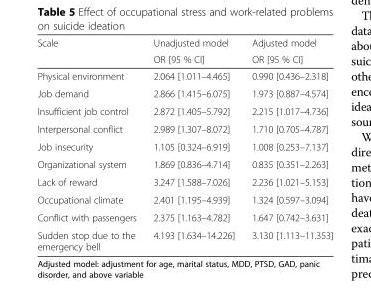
<table><thead><tr><td rowspan="2">Scale</td><td rowspan="2">Unadjusted model OR [95 % CI]</td><td rowspan="2">Adjusted model OR [95 % CI]</td></tr><tr></tr></thead><tbody><tr><td>Physical environment</td><td>2.064 [1.011–4.465]</td><td>0.990 [0.436–2.318]</td></tr><tr><td>Job demand</td><td>2.866 [1.415–6.075]</td><td>1.973 [0.887–4.574]</td></tr><tr><td>Insufficient job control</td><td>2.872 [1.405–5.792]</td><td>2.215 [1.017–4.736]</td></tr><tr><td>Interpersonal conflict</td><td>2.989 [1.307–8.072]</td><td>1.710 [0.705–4.787]</td></tr><tr><td>Job insecurity</td><td>1.105 [0.324–6.919]</td><td>1.008 [0.253–7.137]</td></tr><tr><td>Organizational system</td><td>1.869 [0.836–4.714]</td><td>0.835 [0.351–2.263]</td></tr><tr><td>Lack of reward</td><td>3.247 [1.588–7.026]</td><td>2.236 [1.021–5.153]</td></tr><tr><td>Occupational climate</td><td>2.401 [1.195–4.939]</td><td>1.324 [0.597–3.094]</td></tr><tr><td>Conflict with passengers</td><td>2.375 [1.163–4.782]</td><td>1.647 [0.742–3.631]</td></tr><tr><td>Sudden stop due to the emergency bell</td><td>4.193 [1.634–14.226]</td><td>3.130 [1.113–11.353]</td></tr></tbody></table>